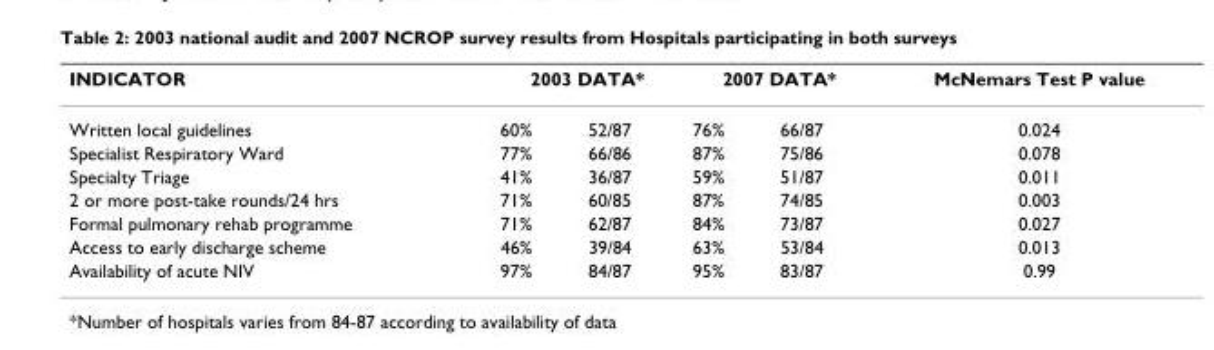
<table><thead><tr><td rowspan="2">INDICATOR Written local guidelines</td><td colspan="2">2003 DATA*</td><td colspan="2">2007 DATA*</td><td rowspan="2">McNemars Test P value 0.024</td></tr><tr><td>60%</td><td>52/87</td><td>76%</td><td>66/87</td></tr></thead><tbody><tr><td>Specialist Respiratory Ward</td><td>77%</td><td>66/86</td><td>87%</td><td>75/86</td><td>0.078</td></tr><tr><td>Specialty Triage</td><td>41%</td><td>36/87</td><td>59%</td><td>51/87</td><td>0.011</td></tr><tr><td>2 or more post-take rounds/24 hrs</td><td>71%</td><td>60/85</td><td>87%</td><td>74/85</td><td>0.003</td></tr><tr><td>Formal pulmonary rehab programme</td><td>71%</td><td>62/87</td><td>84%</td><td>73/87</td><td>0.027</td></tr><tr><td>Access to early discharge scheme</td><td>46%</td><td>39/84</td><td>63%</td><td>53/84</td><td>0.013</td></tr><tr><td>Availability of acute NIV</td><td>97%</td><td>84/87</td><td>95%</td><td>83/87</td><td>0.99</td></tr></tbody></table>